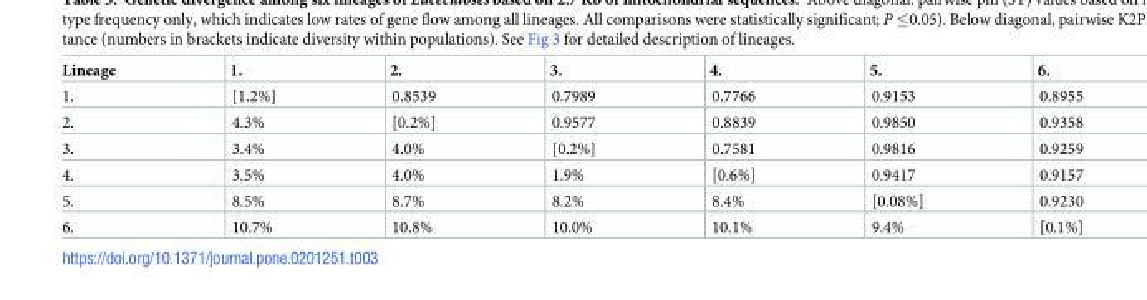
<table><thead><tr><td>Lineage</td><td>1.</td><td>2.</td><td>3.</td><td>4.</td><td>5.</td><td>6.</td></tr></thead><tbody><tr><td>1.</td><td>[1.2%]</td><td>0.8539</td><td>0.7989</td><td>0.7766</td><td>0.9153</td><td>0.8955</td></tr><tr><td>2.</td><td>4.3%</td><td>[0.2%]</td><td>0.9577</td><td>0.8839</td><td>0.9850</td><td>0.9358</td></tr><tr><td>3.</td><td>3.4%</td><td>4.0%</td><td>[0.2%]</td><td>0.7581</td><td>0.9816</td><td>0.9259</td></tr><tr><td>4.</td><td>3.5%</td><td>4.0%</td><td>1.9%</td><td>[0.6%]</td><td>0.9417</td><td>0.9157</td></tr><tr><td>5.</td><td>8.5%</td><td>8.7%</td><td>8.2%</td><td>8.4%</td><td>[0.08%]</td><td>0.9230</td></tr><tr><td>6.</td><td>10.7%</td><td>10.8%</td><td>10.0%</td><td>10.1%</td><td>9.4%</td><td>[0.1%]</td></tr></tbody></table>